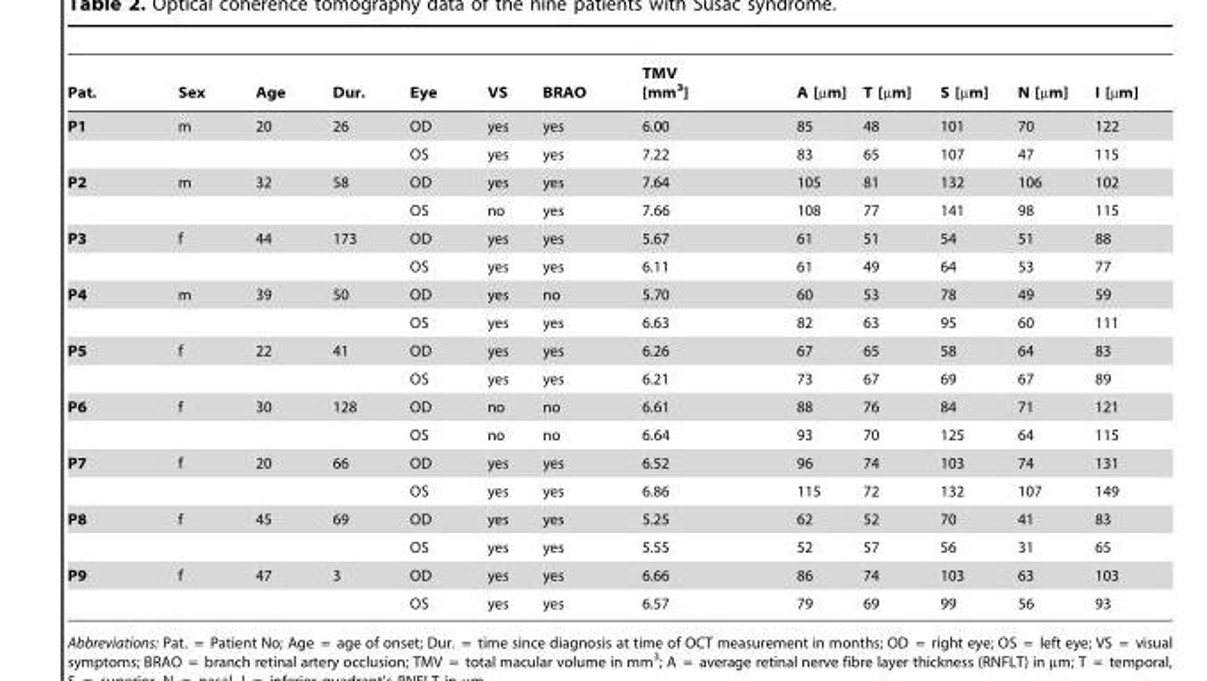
<table><thead><tr><td>Pat.</td><td>Sex</td><td>Age</td><td>Dur.</td><td>Eye</td><td>VS</td><td>BRAO</td><td>TMV [mm<sup>3</sup>]</td><td>A [µm]</td><td>T [µm]</td><td>S [µm]</td><td>N [µm]</td><td>I [µm]</td></tr></thead><tbody><tr><td rowspan="2">P1</td><td>m</td><td>20</td><td>26</td><td>OD</td><td>yes</td><td>yes</td><td>6.00</td><td>85</td><td>48</td><td>101</td><td>70</td><td>122</td></tr><tr><td></td><td></td><td></td><td>OS</td><td>yes</td><td>yes</td><td>7.22</td><td>83</td><td>65</td><td>107</td><td>47</td><td>115</td></tr><tr><td rowspan="2">P2</td><td>m</td><td>32</td><td>58</td><td>OD</td><td>yes</td><td>yes</td><td>7.64</td><td>105</td><td>81</td><td>132</td><td>106</td><td>102</td></tr><tr><td></td><td></td><td></td><td>OS</td><td>no</td><td>yes</td><td>7.66</td><td>108</td><td>77</td><td>141</td><td>98</td><td>115</td></tr><tr><td rowspan="2">P3</td><td>f</td><td>44</td><td>173</td><td>OD</td><td>yes</td><td>yes</td><td>5.67</td><td>61</td><td>51</td><td>54</td><td>51</td><td>88</td></tr><tr><td></td><td></td><td></td><td>OS</td><td>yes</td><td>yes</td><td>6.11</td><td>61</td><td>49</td><td>64</td><td>53</td><td>77</td></tr><tr><td rowspan="2">P4</td><td>m</td><td>39</td><td>50</td><td>OD</td><td>yes</td><td>no</td><td>5.70</td><td>60</td><td>53</td><td>78</td><td>49</td><td>59</td></tr><tr><td></td><td></td><td></td><td>OS</td><td>yes</td><td>yes</td><td>6.63</td><td>82</td><td>63</td><td>95</td><td>60</td><td>111</td></tr><tr><td rowspan="2">P5</td><td>f</td><td>22</td><td>41</td><td>OD</td><td>yes</td><td>yes</td><td>6.26</td><td>67</td><td>65</td><td>58</td><td>64</td><td>83</td></tr><tr><td></td><td></td><td></td><td>OS</td><td>yes</td><td>yes</td><td>6.21</td><td>73</td><td>67</td><td>69</td><td>67</td><td>89</td></tr><tr><td rowspan="2">P6</td><td>f</td><td>30</td><td>128</td><td>OD</td><td>no</td><td>no</td><td>6.61</td><td>88</td><td>76</td><td>84</td><td>71</td><td>121</td></tr><tr><td></td><td></td><td></td><td>OS</td><td>no</td><td>no</td><td>6.64</td><td>93</td><td>70</td><td>125</td><td>64</td><td>115</td></tr><tr><td rowspan="2">P7</td><td>f</td><td>20</td><td>66</td><td>OD</td><td>yes</td><td>yes</td><td>6.52</td><td>96</td><td>74</td><td>103</td><td>74</td><td>131</td></tr><tr><td></td><td></td><td></td><td>OS</td><td>yes</td><td>yes</td><td>6.86</td><td>115</td><td>72</td><td>132</td><td>107</td><td>149</td></tr><tr><td rowspan="2">P8</td><td>f</td><td>45</td><td>69</td><td>OD</td><td>yes</td><td>yes</td><td>5.25</td><td>62</td><td>52</td><td>70</td><td>41</td><td>83</td></tr><tr><td></td><td></td><td></td><td>OS</td><td>yes</td><td>yes</td><td>5.55</td><td>52</td><td>57</td><td>56</td><td>31</td><td>65</td></tr><tr><td rowspan="2">P9</td><td>f</td><td>47</td><td>3</td><td>OD</td><td>yes</td><td>yes</td><td>6.66</td><td>86</td><td>74</td><td>103</td><td>63</td><td>103</td></tr><tr><td></td><td></td><td></td><td>OS</td><td>yes</td><td>yes</td><td>6.57</td><td>79</td><td>69</td><td>99</td><td>56</td><td>93</td></tr></tbody></table>